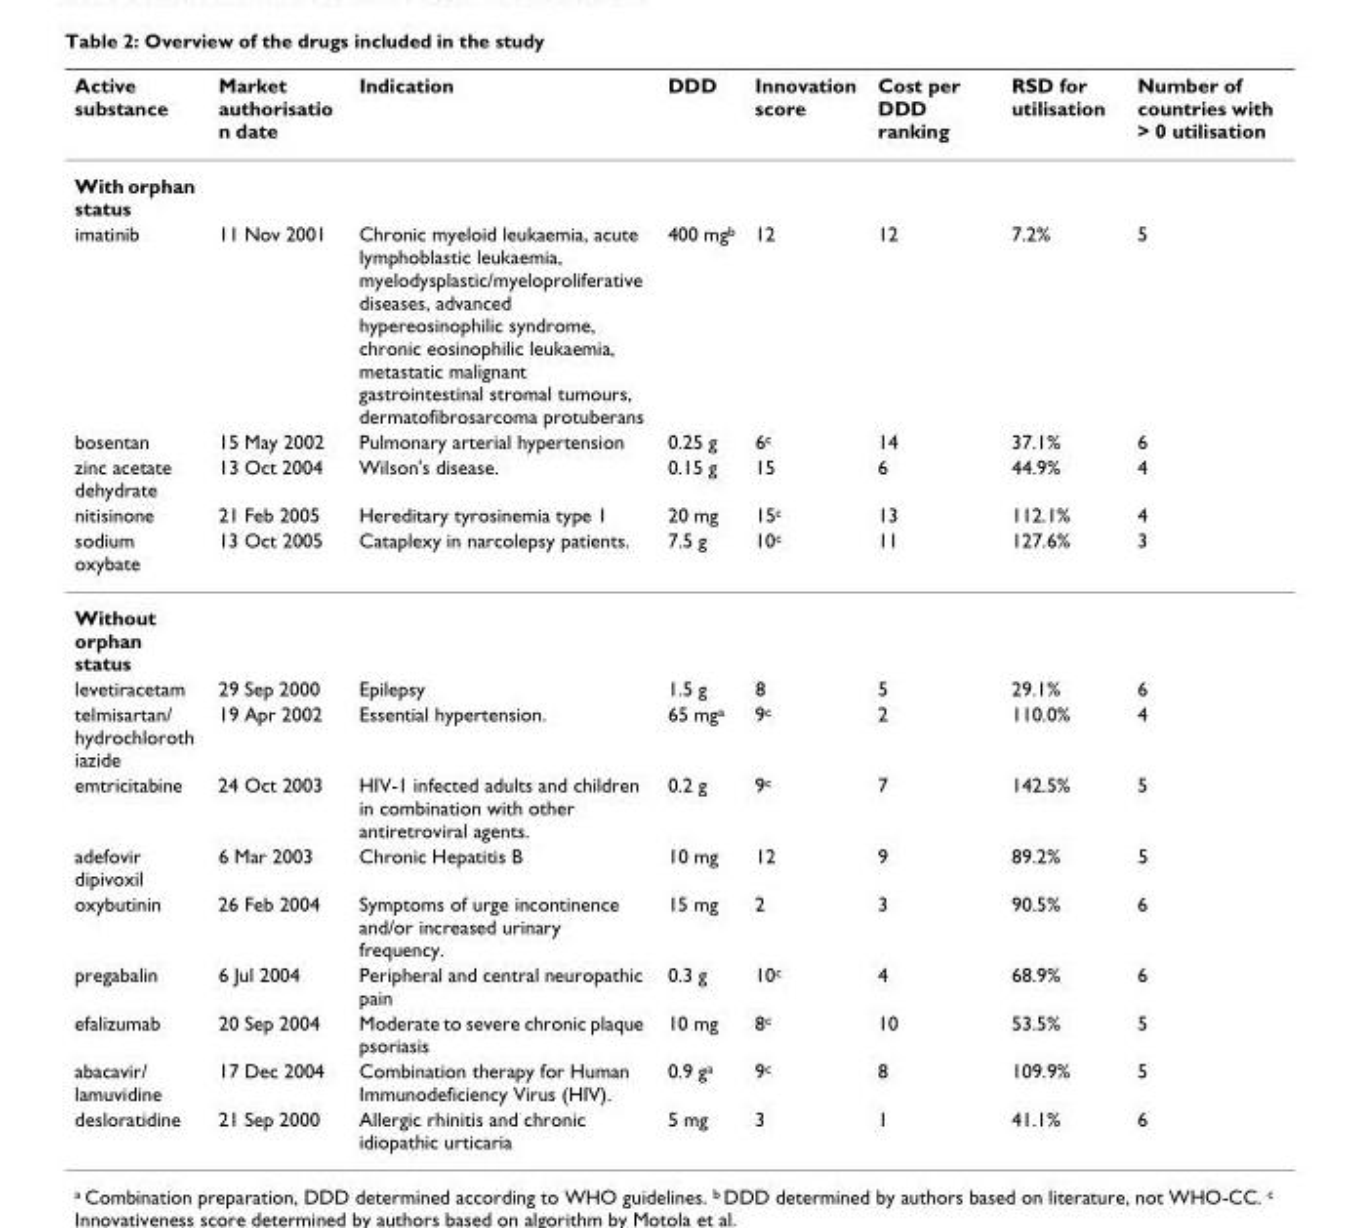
<table><thead><tr><td>Active substance</td><td>Market authorisatio n date</td><td>Indication</td><td>DDD</td><td>Innovation score</td><td>Cost per DDD ranking</td><td>RSD for utilisation</td><td>Number of countries with &gt; 0 utilisation</td></tr></thead><tbody><tr><td colspan="8">With orphan status</td></tr><tr><td>imatinib</td><td>11 Nov 2001</td><td>Chronic myeloid leukaemia, acute lymphoblastic leukaemia, myelodysplastic/myeloproliferative diseases, advanced hypereosinophilic syndrome, chronic eosinophilic leukaemia, metastatic malignant gastrointestinal stromal tumours, dermatofibrosarcoma protuberans</td><td>400 mg<sup>b</sup></td><td>12</td><td>12</td><td>7.2%</td><td>5</td></tr><tr><td>bosentan</td><td>15 May 2002</td><td>Pulmonary arterial hypertension</td><td>0.25 g</td><td>6<sup>c</sup></td><td>14</td><td>37.1%</td><td>6</td></tr><tr><td>zinc acetate dehydrate</td><td>13 Oct 2004</td><td>Wilson&#x27;s disease.</td><td>0.15 g</td><td>15</td><td>6</td><td>44.9%</td><td>4</td></tr><tr><td>nitisinone</td><td>21 Feb 2005</td><td>Hereditary tyrosinemia type 1</td><td>20 mg</td><td>15<sup>c</sup></td><td>13</td><td>112.1%</td><td>4</td></tr><tr><td>sodium oxybate</td><td>13 Oct 2005</td><td>Cataplexy in narcolepsy patients.</td><td>7.5 g</td><td>10<sup>c</sup></td><td>11</td><td>127.6%</td><td>3</td></tr><tr><td colspan="8">Without orphan status</td></tr><tr><td>levetiracetam</td><td>29 Sep 2000</td><td>Epilepsy</td><td>1.5 g</td><td>8</td><td>5</td><td>29.1%</td><td>6</td></tr><tr><td>telmisartan/ hydrochloroth iazide</td><td>19 Apr 2002</td><td>Essential hypertension.</td><td>65 mg<sup>a</sup></td><td>9<sup>c</sup></td><td>2</td><td>110.0%</td><td>4</td></tr><tr><td>emtricitabine</td><td>24 Oct 2003</td><td>HIV-1 infected adults and children in combination with other antiretroviral agents.</td><td>0.2 g</td><td>9<sup>c</sup></td><td>7</td><td>142.5%</td><td>5</td></tr><tr><td>adefovir dipivoxil</td><td>6 Mar 2003</td><td>Chronic Hepatitis B</td><td>10 mg</td><td>12</td><td>9</td><td>89.2%</td><td>5</td></tr><tr><td>oxybutinin</td><td>26 Feb 2004</td><td>Symptoms of urge incontinence and/or increased urinary frequency.</td><td>15 mg</td><td>2</td><td>3</td><td>90.5%</td><td>6</td></tr><tr><td>pregabalin</td><td>6 Jul 2004</td><td>Peripheral and central neuropathic pain</td><td>0.3 g</td><td>10<sup>c</sup></td><td>4</td><td>68.9%</td><td>6</td></tr><tr><td>efalizumab</td><td>20 Sep 2004</td><td>Moderate to severe chronic plaque psoriasis</td><td>10 mg</td><td>8<sup>c</sup></td><td>10</td><td>53.5%</td><td>5</td></tr><tr><td>abacavir/ lamuvidine</td><td>17 Dec 2004</td><td>Combination therapy for Human Immunodeficiency Virus (HIV).</td><td>0.9 g<sup>a</sup></td><td>9<sup>c</sup></td><td>8</td><td>109.9%</td><td>5</td></tr><tr><td>desloratidine</td><td>21 Sep 2000</td><td>Allergic rhinitis and chronic idiopathic urticaria</td><td>5 mg</td><td>3</td><td>1</td><td>41.1%</td><td>6</td></tr></tbody></table>